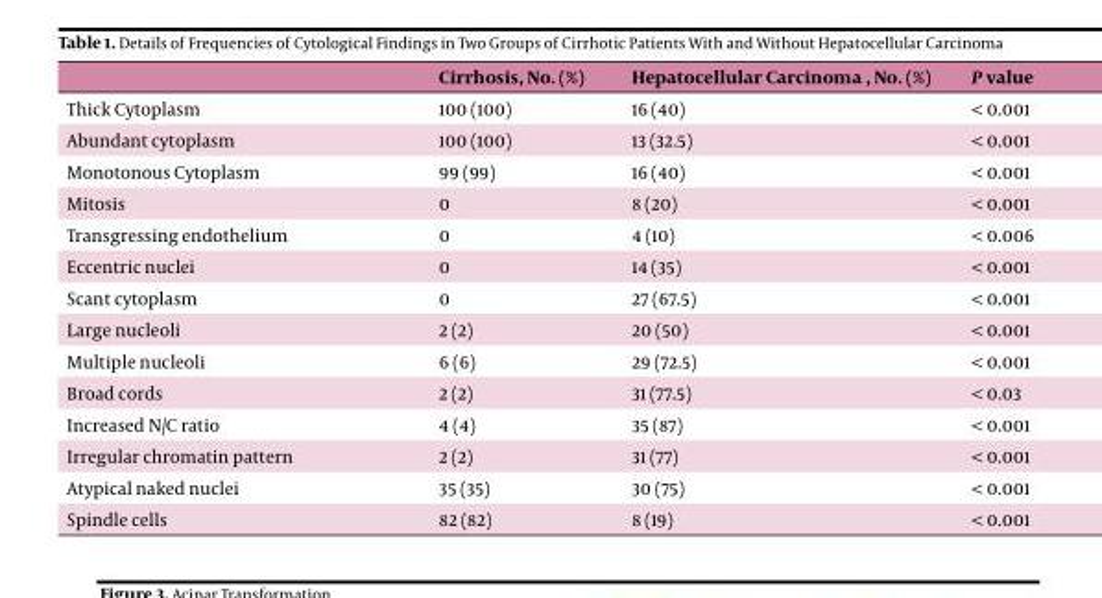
<table><thead><tr><td></td><td>Cirrhosis, No. (%)</td><td>Hepatocellular Carcinoma , No. (%)</td><td>P value</td></tr></thead><tbody><tr><td>Thick Cytoplasm</td><td>100 (100)</td><td>16 (40)</td><td>&lt; 0.001</td></tr><tr><td>Abundant cytoplasm</td><td>100 (100)</td><td>13 (32.5)</td><td>&lt; 0.001</td></tr><tr><td>Monotonous Cytoplasm</td><td>99 (99)</td><td>16 (40)</td><td>&lt; 0.001</td></tr><tr><td>Mitosis</td><td>0</td><td>8 (20)</td><td>&lt; 0.001</td></tr><tr><td>Transgressing endothelium</td><td>0</td><td>4 (10)</td><td>&lt; 0.006</td></tr><tr><td>Eccentric nuclei</td><td>0</td><td>14 (35)</td><td>&lt; 0.001</td></tr><tr><td>Scant cytoplasm</td><td>0</td><td>27 (67.5)</td><td>&lt; 0.001</td></tr><tr><td>Large nucleoli</td><td>2 (2)</td><td>20 (50)</td><td>&lt; 0.001</td></tr><tr><td>Multiple nucleoli</td><td>6 (6)</td><td>29 (72.5)</td><td>&lt; 0.001</td></tr><tr><td>Broad cords</td><td>2 (2)</td><td>31 (77.5)</td><td>&lt; 0.03</td></tr><tr><td>Increased N/C ratio</td><td>4 (4)</td><td>35 (87)</td><td>&lt; 0.001</td></tr><tr><td>Irregular chromatin pattern</td><td>2 (2)</td><td>31 (77)</td><td>&lt; 0.001</td></tr><tr><td>Atypical naked nuclei</td><td>35 (35)</td><td>30 (75)</td><td>&lt; 0.001</td></tr><tr><td>Spindle cells</td><td>82 (82)</td><td>8 (19)</td><td>&lt; 0.001</td></tr></tbody></table>